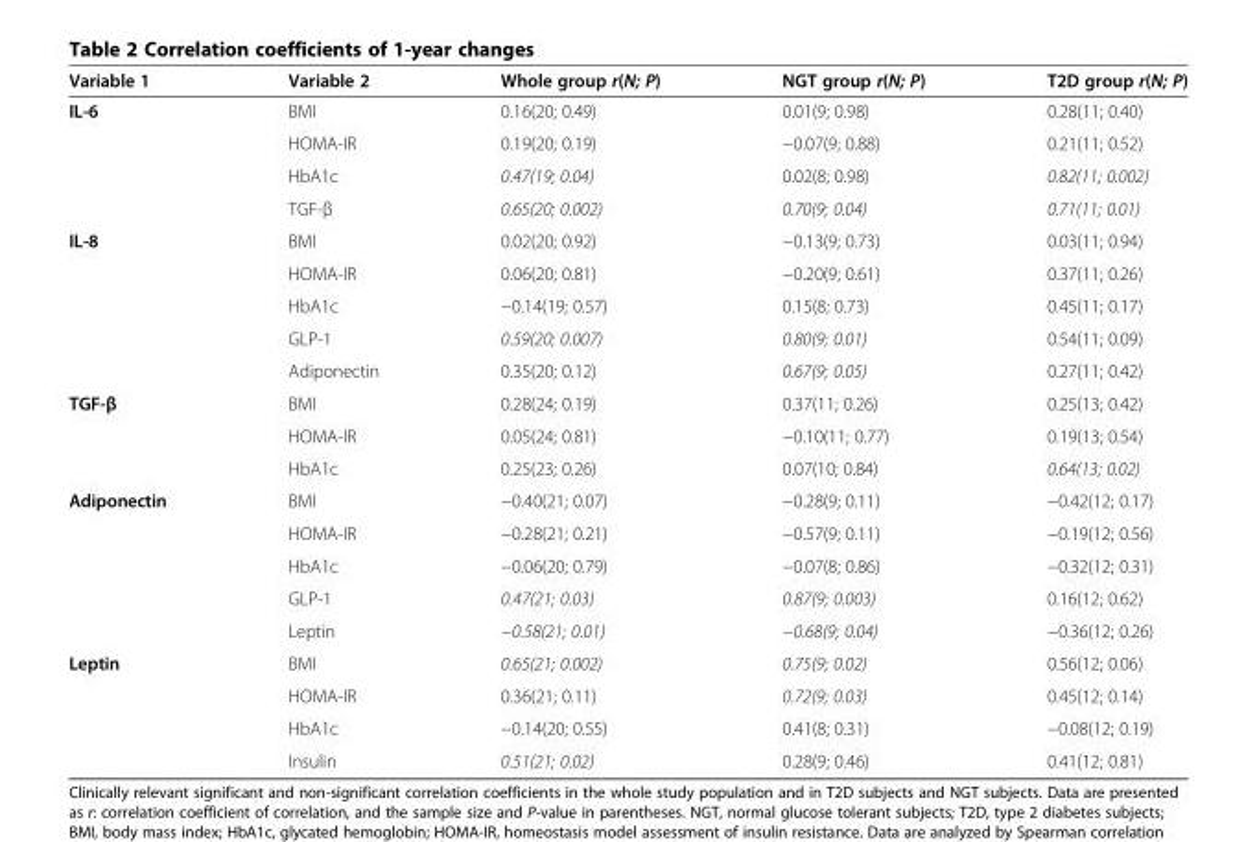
<table><thead><tr><td>Variable 1</td><td>Variable 2</td><td>Whole group r(N; P)</td><td>NGT group r(N; P)</td><td>T2D group r(N; P)</td></tr></thead><tbody><tr><td rowspan="4">IL-6</td><td>BMI</td><td>0.16(20; 0.49)</td><td>0.01(9; 0.98)</td><td>0.28(11; 0.40)</td></tr><tr><td>HOMA-IR</td><td>0.19(20; 0.19)</td><td>−0.07(9; 0.88)</td><td>0.21(11; 0.52)</td></tr><tr><td>HbA1c</td><td>0.47(19; 0.04)</td><td>0.02(8; 0.98)</td><td>0.82(11; 0.002)</td></tr><tr><td>TGF-β</td><td>0.65(20; 0.002)</td><td>0.70(9; 0.04)</td><td>0.71(11; 0.01)</td></tr><tr><td rowspan="5">IL-8</td><td>BMI</td><td>0.02(20; 0.92)</td><td>−0.13(9; 0.73)</td><td>0.03(11; 0.94)</td></tr><tr><td>HOMA-IR</td><td>0.06(20; 0.81)</td><td>−0.20(9; 0.61)</td><td>0.37(11; 0.26)</td></tr><tr><td>HbA1c</td><td>−0.14(19; 0.57)</td><td>0.15(8; 0.73)</td><td>0.45(11; 0.17)</td></tr><tr><td>GLP-1</td><td>0.59(20; 0.007)</td><td>0.80(9; 0.01)</td><td>0.54(11; 0.09)</td></tr><tr><td>Adiponectin</td><td>0.35(20; 0.12)</td><td>0.67(9; 0.05)</td><td>0.27(11; 0.42)</td></tr><tr><td rowspan="3">TGF-β</td><td>BMI</td><td>0.28(24; 0.19)</td><td>0.37(11; 0.26)</td><td>0.25(13; 0.42)</td></tr><tr><td>HOMA-IR</td><td>0.05(24; 0.81)</td><td>−0.10(11; 0.77)</td><td>0.19(13; 0.54)</td></tr><tr><td>HbA1c</td><td>0.25(23; 0.26)</td><td>0.07(10; 0.84)</td><td>0.64(13; 0.02)</td></tr><tr><td rowspan="5">Adiponectin</td><td>BMI</td><td>−0.40(21; 0.07)</td><td>−0.28(9; 0.11)</td><td>−0.42(12; 0.17)</td></tr><tr><td>HOMA-IR</td><td>−0.28(21; 0.21)</td><td>−0.57(9; 0.11)</td><td>−0.19(12; 0.56)</td></tr><tr><td>HbA1c</td><td>−0.06(20; 0.79)</td><td>−0.07(8; 0.86)</td><td>−0.32(12; 0.31)</td></tr><tr><td>GLP-1</td><td>0.47(21; 0.03)</td><td>0.87(9; 0.003)</td><td>0.16(12; 0.62)</td></tr><tr><td>Leptin</td><td>−0.58(21; 0.01)</td><td>−0.68(9; 0.04)</td><td>−0.36(12; 0.26)</td></tr><tr><td rowspan="4">Leptin</td><td>BMI</td><td>0.65(21; 0.002)</td><td>0.75(9; 0.02)</td><td>0.56(12; 0.06)</td></tr><tr><td>HOMA-IR</td><td>0.36(21; 0.11)</td><td>0.72(9; 0.03)</td><td>0.45(12; 0.14)</td></tr><tr><td>HbA1c</td><td>−0.14(20; 0.55)</td><td>0.41(8; 0.31)</td><td>−0.08(12; 0.19)</td></tr><tr><td>Insulin</td><td>0.51(21; 0.02)</td><td>0.28(9; 0.46)</td><td>0.41(12; 0.81)</td></tr></tbody></table>